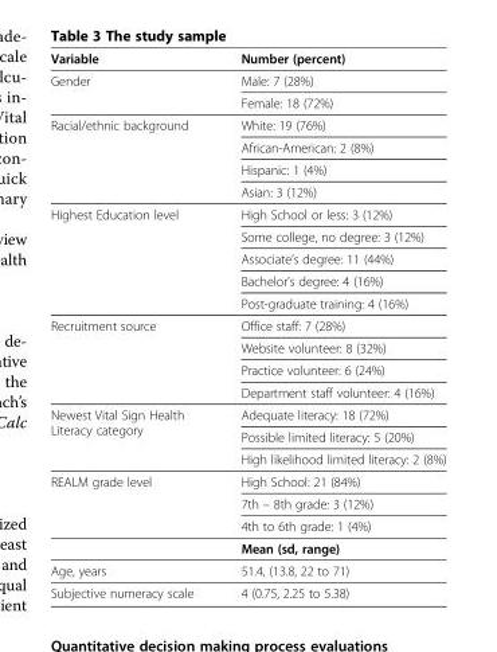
<table><thead><tr><td>Variable</td><td>Number (percent)</td></tr></thead><tbody><tr><td rowspan="2">Gender</td><td>Male: 7 (28%)</td></tr><tr><td>Female: 18 (72%)</td></tr><tr><td rowspan="4">Racial/ethnic background</td><td>White: 19 (76%)</td></tr><tr><td>African-American: 2 (8%)</td></tr><tr><td>Hispanic: 1 (4%)</td></tr><tr><td>Asian: 3 (12%)</td></tr><tr><td rowspan="5">Highest Education level</td><td>High School or less: 3 (12%)</td></tr><tr><td>Some college, no degree: 3 (12%)</td></tr><tr><td>Associate’s degree: 11 (44%)</td></tr><tr><td>Bachelor’s degree: 4 (16%)</td></tr><tr><td>Post-graduate training: 4 (16%)</td></tr><tr><td rowspan="4">Recruitment source</td><td>Office staff: 7 (28%)</td></tr><tr><td>Website volunteer: 8 (32%)</td></tr><tr><td>Practice volunteer: 6 (24%)</td></tr><tr><td>Department staff volunteer: 4 (16%)</td></tr><tr><td rowspan="3">Newest Vital Sign Health Literacy category</td><td>Adequate literacy: 18 (72%)</td></tr><tr><td>Possible limited literacy: 5 (20%)</td></tr><tr><td>High likelihood limited literacy: 2 (8%)</td></tr><tr><td rowspan="4">REALM grade level</td><td>High School: 21 (84%)</td></tr><tr><td>7th – 8th grade: 3 (12%)</td></tr><tr><td>4th to 6th grade: 1 (4%)</td></tr><tr><td>Mean (sd, range)</td></tr><tr><td>Age, years</td><td>51.4, (13.8, 22 to 71)</td></tr><tr><td>Subjective numeracy scale</td><td>4 (0.75, 2.25 to 5.38)</td></tr></tbody></table>